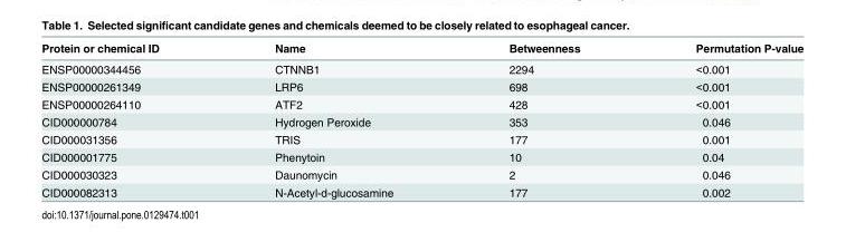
<table><thead><tr><td>Protein or chemical ID</td><td>Name</td><td>Betweenness</td><td>Permutation P-value</td></tr></thead><tbody><tr><td>ENSP00000344456</td><td>CTNNB1</td><td>2294</td><td>&lt;0.001</td></tr><tr><td>ENSP00000261349</td><td>LRP6</td><td>698</td><td>&lt;0.001</td></tr><tr><td>ENSP00000264110</td><td>ATF2</td><td>428</td><td>&lt;0.001</td></tr><tr><td>CID000000784</td><td>Hydrogen Peroxide</td><td>353</td><td>0.046</td></tr><tr><td>CID000031356</td><td>TRIS</td><td>177</td><td>0.001</td></tr><tr><td>CID000001775</td><td>Phenytoin</td><td>10</td><td>0.04</td></tr><tr><td>CID000030323</td><td>Daunomycin</td><td>2</td><td>0.046</td></tr><tr><td>CID000082313</td><td>N-Acetyl-d-glucosamine</td><td>177</td><td>0.002</td></tr></tbody></table>